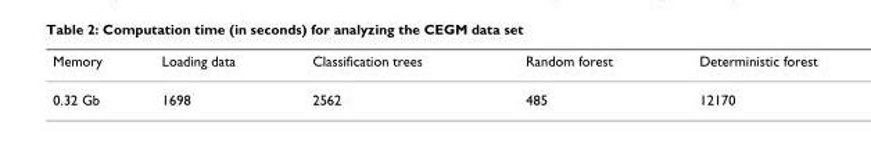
<table><thead><tr><td>Memory</td><td>Loading data</td><td>Classification trees</td><td>Random forest</td><td>Deterministic forest</td></tr></thead><tbody><tr><td>0.32 Gb</td><td>1698</td><td>2562</td><td>485</td><td>12170</td></tr></tbody></table>